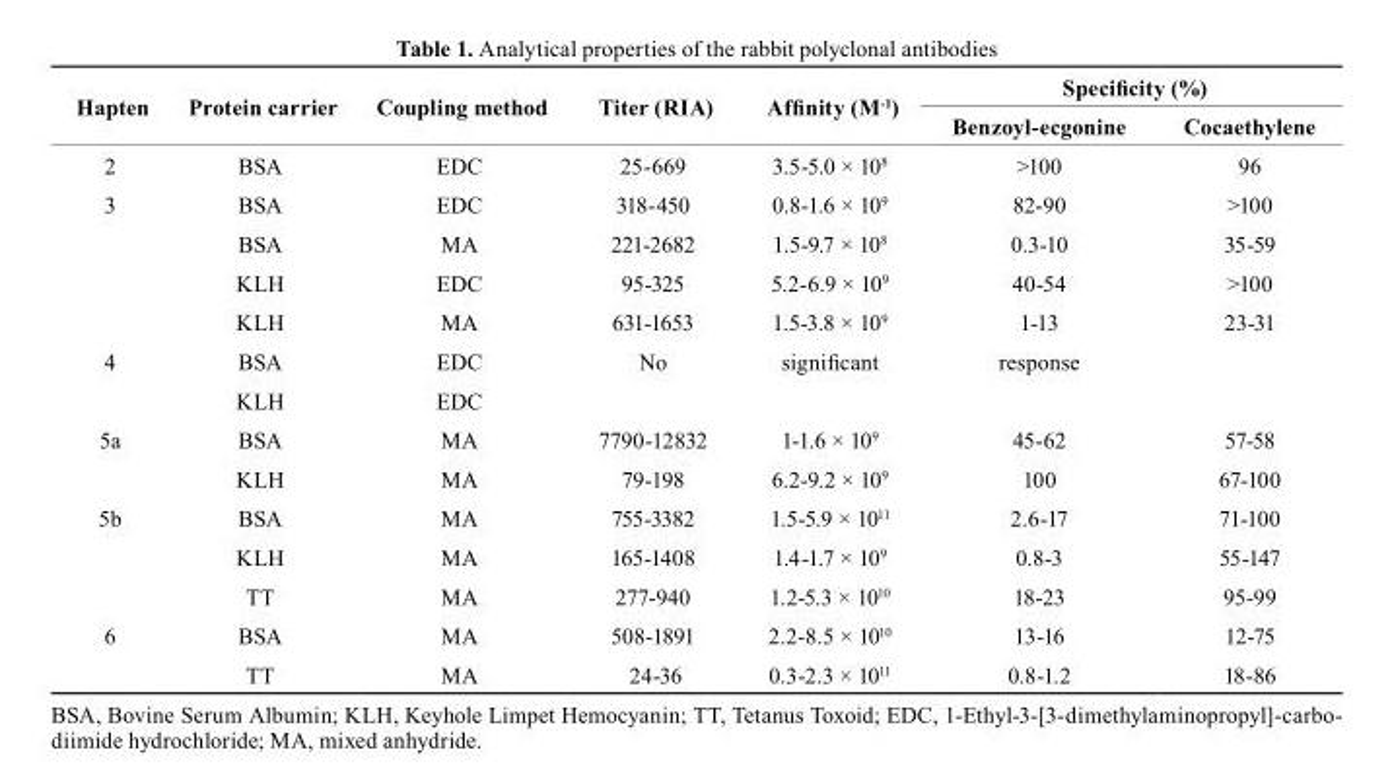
<table><thead><tr><td rowspan="2">Hapten</td><td rowspan="2">Protein carrier</td><td rowspan="2">Coupling method</td><td rowspan="2">Titer (RIA)</td><td rowspan="2">Affinity (M<sup>-1</sup>)</td><td colspan="2">Specificity (%)</td></tr><tr><td>Benzoyl-ecgonine</td><td>Cocaethylene</td></tr></thead><tbody><tr><td>2</td><td>BSA</td><td>EDC</td><td>25-669</td><td>3.5-5.0 × 10<sup>8</sup></td><td>&gt;100</td><td>96</td></tr><tr><td rowspan="4">3</td><td>BSA</td><td>EDC</td><td>318-450</td><td>0.8-1.6 × 10<sup>9</sup></td><td>82-90</td><td>&gt;100</td></tr><tr><td>BSA</td><td>MA</td><td>221-2682</td><td>1.5-9.7 × 10<sup>8</sup></td><td>0.3-10</td><td>35-59</td></tr><tr><td>KLH</td><td>EDC</td><td>95-325</td><td>5.2-6.9 × 10<sup>9</sup></td><td>40-54</td><td>&gt;100</td></tr><tr><td>KLH</td><td>MA</td><td>631-1653</td><td>1.5-3.8 × 10<sup>9</sup></td><td>1-13</td><td>23-31</td></tr><tr><td rowspan="2">4</td><td>BSA</td><td>EDC</td><td>No</td><td>significant</td><td>response</td><td></td></tr><tr><td>KLH</td><td>EDC</td><td></td><td></td><td></td><td></td></tr><tr><td rowspan="2">5a</td><td>BSA</td><td>MA</td><td>7790-12832</td><td>1-1.6 × 10<sup>9</sup></td><td>45-62</td><td>57-58</td></tr><tr><td>KLH</td><td>MA</td><td>79-198</td><td>6.2-9.2 × 10<sup>9</sup></td><td>100</td><td>67-100</td></tr><tr><td rowspan="3">5b</td><td>BSA</td><td>MA</td><td>755-3382</td><td>1.5-5.9 × 10<sup>11</sup></td><td>2.6-17</td><td>71-100</td></tr><tr><td>KLH</td><td>MA</td><td>165-1408</td><td>1.4-1.7 × 10<sup>9</sup></td><td>0.8-3</td><td>55-147</td></tr><tr><td>TT</td><td>MA</td><td>277-940</td><td>1.2-5.3 × 10<sup>10</sup></td><td>18-23</td><td>95-99</td></tr><tr><td rowspan="2">6</td><td>BSA</td><td>MA</td><td>508-1891</td><td>2.2-8.5 × 10<sup>10</sup></td><td>13-16</td><td>12-75</td></tr><tr><td>TT</td><td>MA</td><td>24-36</td><td>0.3-2.3 × 10<sup>11</sup></td><td>0.8-1.2</td><td>18-86</td></tr></tbody></table>